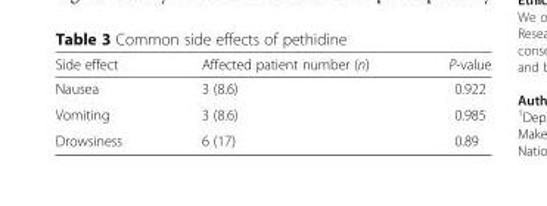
<table><thead><tr><td>Side effect</td><td>Affected patient number (n)</td><td>P-value</td></tr></thead><tbody><tr><td>Nausea</td><td>3 (8.6)</td><td>0.922</td></tr><tr><td>Vomiting</td><td>3 (8.6)</td><td>0.985</td></tr><tr><td>Drowsiness</td><td>6 (17)</td><td>0.89</td></tr></tbody></table>